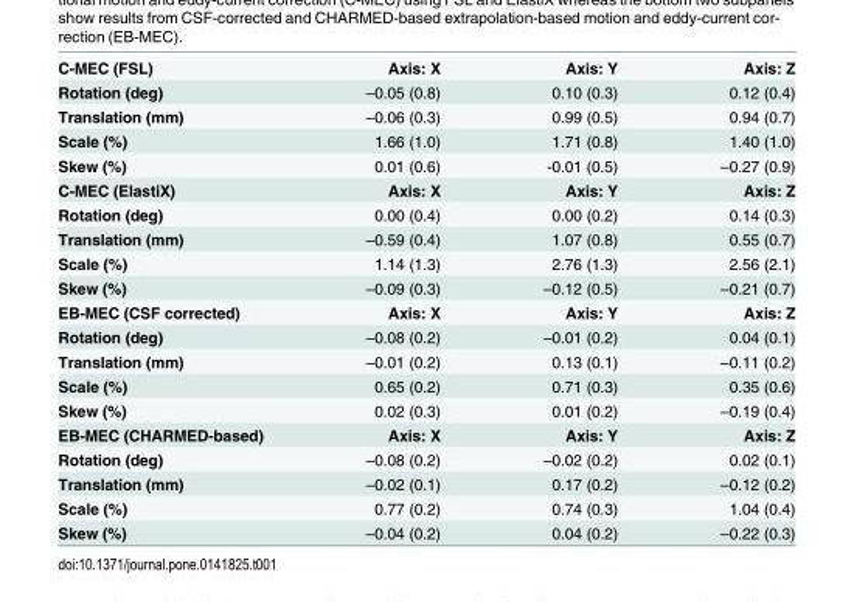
<table><tbody><tr><td>C-MEC (FSL)</td><td>Axis: X</td><td>Axis: Y</td><td>Axis: Z</td></tr><tr><td>Rotation (deg)</td><td>–0.05 (0.8)</td><td>0.10 (0.3)</td><td>0.12 (0.4)</td></tr><tr><td>Translation (mm)</td><td>–0.06 (0.3)</td><td>0.99 (0.5)</td><td>0.94 (0.7)</td></tr><tr><td>Scale (%)</td><td>1.66 (1.0)</td><td>1.71 (0.8)</td><td>1.40 (1.0)</td></tr><tr><td>Skew (%)</td><td>0.01 (0.6)</td><td>-0.01 (0.5)</td><td>–0.27 (0.9)</td></tr><tr><td>C-MEC (ElastiX)</td><td>Axis: X</td><td>Axis: Y</td><td>Axis: Z</td></tr><tr><td>Rotation (deg)</td><td>0.00 (0.4)</td><td>0.00 (0.2)</td><td>0.14 (0.3)</td></tr><tr><td>Translation (mm)</td><td>–0.59 (0.4)</td><td>1.07 (0.8)</td><td>0.55 (0.7)</td></tr><tr><td>Scale (%)</td><td>1.14 (1.3)</td><td>2.76 (1.3)</td><td>2.56 (2.1)</td></tr><tr><td>Skew (%)</td><td>–0.09 (0.3)</td><td>–0.12 (0.5)</td><td>–0.21 (0.7)</td></tr><tr><td>EB-MEC (CSF corrected)</td><td>Axis: X</td><td>Axis: Y</td><td>Axis: Z</td></tr><tr><td>Rotation (deg)</td><td>–0.08 (0.2)</td><td>–0.01 (0.2)</td><td>0.04 (0.1)</td></tr><tr><td>Translation (mm)</td><td>–0.01 (0.2)</td><td>0.13 (0.1)</td><td>–0.11 (0.2)</td></tr><tr><td>Scale (%)</td><td>0.65 (0.2)</td><td>0.71 (0.3)</td><td>0.35 (0.6)</td></tr><tr><td>Skew (%)</td><td>0.02 (0.3)</td><td>0.01 (0.2)</td><td>–0.19 (0.4)</td></tr><tr><td>EB-MEC (CHARMED-based)</td><td>Axis: X</td><td>Axis: Y</td><td>Axis: Z</td></tr><tr><td>Rotation (deg)</td><td>–0.08 (0.2)</td><td>–0.02 (0.2)</td><td>0.02 (0.1)</td></tr><tr><td>Translation (mm)</td><td>–0.02 (0.1)</td><td>0.17 (0.2)</td><td>–0.12 (0.2)</td></tr><tr><td>Scale (%)</td><td>0.77 (0.2)</td><td>0.74 (0.3)</td><td>1.04 (0.4)</td></tr><tr><td>Skew (%)</td><td>–0.04 (0.2)</td><td>0.04 (0.2)</td><td>–0.22 (0.3)</td></tr></tbody></table>